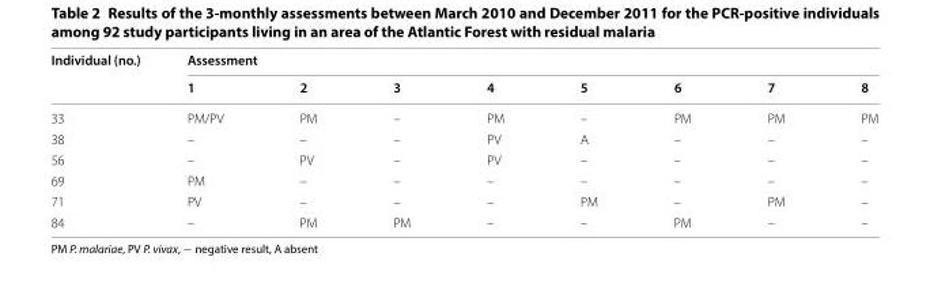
<table><thead><tr><td rowspan="2">Individual (no.)</td><td colspan="8">Assessment</td></tr><tr><td>1</td><td>2</td><td>3</td><td>4</td><td>5</td><td>6</td><td>7</td><td>8</td></tr></thead><tbody><tr><td>33</td><td>PM/PV</td><td>PM</td><td>–</td><td>PM</td><td>–</td><td>PM</td><td>PM</td><td>PM</td></tr><tr><td>38</td><td>–</td><td>–</td><td>–</td><td>PV</td><td>A</td><td>–</td><td>–</td><td>–</td></tr><tr><td>56</td><td>–</td><td>PV</td><td>–</td><td>PV</td><td>–</td><td>–</td><td>–</td><td>–</td></tr><tr><td>69</td><td>PM</td><td>–</td><td>–</td><td>–</td><td>–</td><td>–</td><td>–</td><td>–</td></tr><tr><td>71</td><td>PV</td><td>–</td><td>–</td><td>–</td><td>PM</td><td>–</td><td>PM</td><td>–</td></tr><tr><td>84</td><td>–</td><td>PM</td><td>PM</td><td>–</td><td>–</td><td>PM</td><td>–</td><td>–</td></tr></tbody></table>